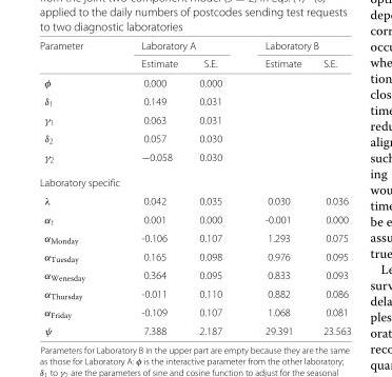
<table><thead><tr><td rowspan="2">Parameter</td><td colspan="2">Laboratory A</td><td colspan="2">Laboratory B</td></tr><tr><td>Estimate</td><td>S.E.</td><td>Estimate</td><td>S.E.</td></tr></thead><tbody><tr><td>φ</td><td>0.000</td><td>0.000</td><td></td><td></td></tr><tr><td>δ<sub>1</sub></td><td>0.149</td><td>0.031</td><td></td><td></td></tr><tr><td>γ<sub>1</sub></td><td>0.063</td><td>0.031</td><td></td><td></td></tr><tr><td>δ<sub>2</sub></td><td>0.057</td><td>0.030</td><td></td><td></td></tr><tr><td>γ<sub>2</sub></td><td>−0.058</td><td>0.030</td><td></td><td></td></tr><tr><td colspan="5">Laboratory specific</td></tr><tr><td>λ</td><td>0.042</td><td>0.035</td><td>0.030</td><td>0.036</td></tr><tr><td>α<sub>t</sub></td><td>0.001</td><td>0.000</td><td>-0.001</td><td>0.000</td></tr><tr><td>α<sub>Monday</sub></td><td>-0.106</td><td>0.107</td><td>1.293</td><td>0.075</td></tr><tr><td>α<sub>Tuesday</sub></td><td>0.165</td><td>0.098</td><td>0.976</td><td>0.095</td></tr><tr><td>α<sub>Wenesday</sub></td><td>0.364</td><td>0.095</td><td>0.833</td><td>0.093</td></tr><tr><td>α<sub>Thursday</sub></td><td>-0.011</td><td>0.110</td><td>0.882</td><td>0.086</td></tr><tr><td>α<sub>Friday</sub></td><td>-0.109</td><td>0.107</td><td>1.068</td><td>0.081</td></tr><tr><td>ψ</td><td>7.388</td><td>2.187</td><td>29.391</td><td>23.563</td></tr></tbody></table>